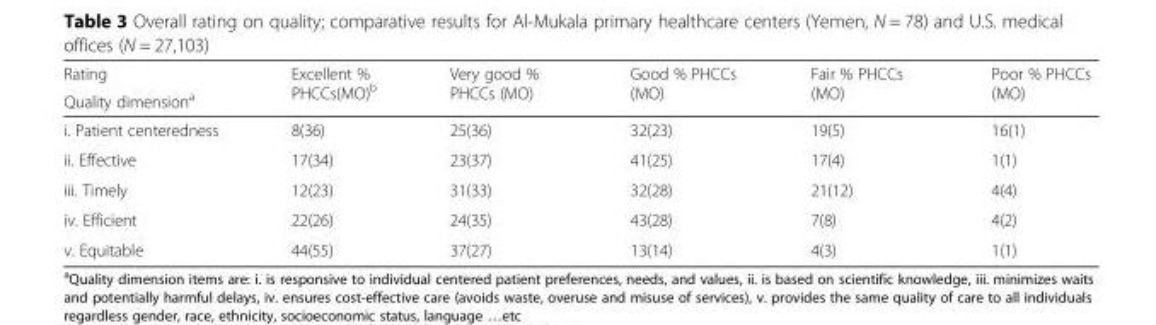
<table><thead><tr><td rowspan="2">Rating Quality dimension<sup>a</sup></td><td rowspan="2">Excellent % PHCCs(MO)<sup>b</sup></td><td rowspan="2">Very good % PHCCs (MO)</td><td rowspan="2">Good % PHCCs (MO)</td><td rowspan="2">Fair % PHCCs (MO)</td><td rowspan="2">Poor % PHCCs (MO)</td></tr><tr></tr></thead><tbody><tr><td>i. Patient centeredness</td><td>8(36)</td><td>25(36)</td><td>32(23)</td><td>19(5)</td><td>16(1)</td></tr><tr><td>ii. Effective</td><td>17(34)</td><td>23(37)</td><td>41(25)</td><td>17(4)</td><td>1(1)</td></tr><tr><td>iii. Timely</td><td>12(23)</td><td>31(33)</td><td>32(28)</td><td>21(12)</td><td>4(4)</td></tr><tr><td>iv. Efficient</td><td>22(26)</td><td>24(35)</td><td>43(28)</td><td>7(8)</td><td>4(2)</td></tr><tr><td>v. Equitable</td><td>44(55)</td><td>37(27)</td><td>13(14)</td><td>4(3)</td><td>1(1)</td></tr></tbody></table>